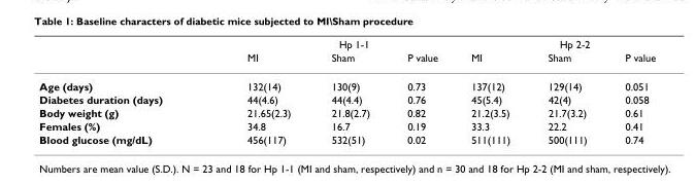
<table><thead><tr><td rowspan="2"></td><td colspan="3">Hp 1-1</td><td colspan="3">Hp 2-2</td></tr><tr><td>MI</td><td>Sham</td><td>P value</td><td>MI</td><td>Sham</td><td>P value</td></tr></thead><tbody><tr><td>Age (days)</td><td>132(14)</td><td>130(9)</td><td>0.73</td><td>137(12)</td><td>129(14)</td><td>0.051</td></tr><tr><td>Diabetes duration (days)</td><td>44(4.6)</td><td>44(4.4)</td><td>0.76</td><td>45(5.4)</td><td>42(4)</td><td>0.058</td></tr><tr><td>Body weight (g)</td><td>21.65(2.3)</td><td>21.8(2.7)</td><td>0.82</td><td>21.2(3.5)</td><td>21.7(3.2)</td><td>0.61</td></tr><tr><td>Females (%)</td><td>34.8</td><td>16.7</td><td>0.19</td><td>33.3</td><td>22.2</td><td>0.41</td></tr><tr><td>Blood glucose (mg/dL)</td><td>456(117)</td><td>532(51)</td><td>0.02</td><td>511(111)</td><td>500(111)</td><td>0.74</td></tr></tbody></table>